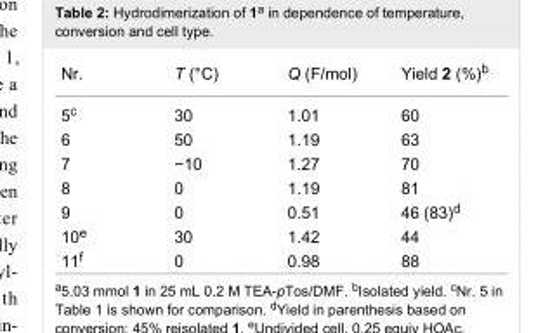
<table><tbody><tr><td>Nr.</td><td>T (°C)</td><td>Q (F/mol)</td><td>Yield 2 (%)<sup>b</sup></td></tr><tr><td>5<sup>c</sup></td><td>30</td><td>1.01</td><td>60</td></tr><tr><td>6</td><td>50</td><td>1.19</td><td>63</td></tr><tr><td>7</td><td>−10</td><td>1.27</td><td>70</td></tr><tr><td>8</td><td>0</td><td>1.19</td><td>81</td></tr><tr><td>9</td><td>0</td><td>0.51</td><td>46 (83)<sup>d</sup></td></tr><tr><td>10<sup>e</sup></td><td>30</td><td>1.42</td><td>44</td></tr><tr><td>11<sup>f</sup></td><td>0</td><td>0.98</td><td>88</td></tr></tbody></table>